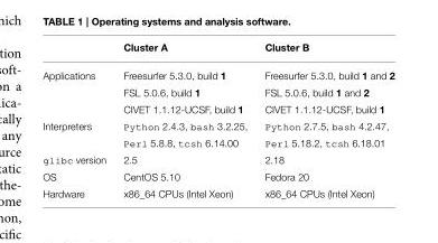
<table><thead><tr><td></td><td>Cluster A</td><td>Cluster B</td></tr></thead><tbody><tr><td rowspan="3">Applications</td><td>Freesurfer 5.3.0, build 1</td><td>Freesurfer 5.3.0, build 1 and 2</td></tr><tr><td>FSL 5.0.6, build 1</td><td>FSL 5.0.6, build 1 and 2</td></tr><tr><td>CIVET 1.1.12-UCSF, build 1</td><td>CIVET 1.1.12-UCSF, build 1</td></tr><tr><td>Interpreters</td><td>Python 2.4.3, bash 3.2.25, Perl 5.8.8, tcsh 6.14.00</td><td>Python 2.7.5, bash 4.2.47, Perl 5.18.2, tcsh 6.18.01</td></tr><tr><td>glibc version</td><td>2.5</td><td>2.18</td></tr><tr><td>OS</td><td>CentOS 5.10</td><td>Fedora 20</td></tr><tr><td>Hardware</td><td>x86_64 CPUs (Intel Xeon)</td><td>x86_64 CPUs (Intel Xeon)</td></tr></tbody></table>